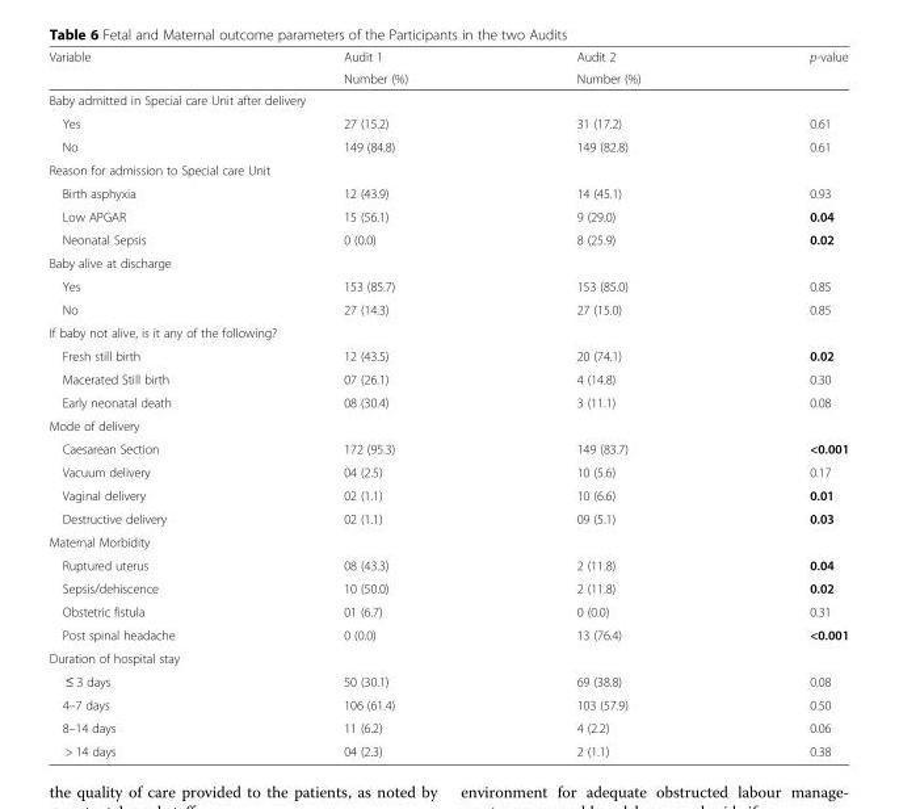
<table><thead><tr><td rowspan="2">Variable</td><td rowspan="2">Audit 1 Number (%)</td><td rowspan="2">Audit 2 Number (%)</td><td rowspan="2">p-value</td></tr><tr></tr></thead><tbody><tr><td colspan="4">Baby admitted in Special care Unit after delivery</td></tr><tr><td>Yes</td><td>27 (15.2)</td><td>31 (17.2)</td><td>0.61</td></tr><tr><td>No</td><td>149 (84.8)</td><td>149 (82.8)</td><td>0.61</td></tr><tr><td colspan="4">Reason for admission to Special care Unit</td></tr><tr><td>Birth asphyxia</td><td>12 (43.9)</td><td>14 (45.1)</td><td>0.93</td></tr><tr><td>Low APGAR</td><td>15 (56.1)</td><td>9 (29.0)</td><td>0.04</td></tr><tr><td>Neonatal Sepsis</td><td>0 (0.0)</td><td>8 (25.9)</td><td>0.02</td></tr><tr><td colspan="4">Baby alive at discharge</td></tr><tr><td>Yes</td><td>153 (85.7)</td><td>153 (85.0)</td><td>0.85</td></tr><tr><td>No</td><td>27 (14.3)</td><td>27 (15.0)</td><td>0.85</td></tr><tr><td colspan="4">If baby not alive, is it any of the following?</td></tr><tr><td>Fresh still birth</td><td>12 (43.5)</td><td>20 (74.1)</td><td>0.02</td></tr><tr><td>Macerated Still birth</td><td>07 (26.1)</td><td>4 (14.8)</td><td>0.30</td></tr><tr><td>Early neonatal death</td><td>08 (30.4)</td><td>3 (11.1)</td><td>0.08</td></tr><tr><td colspan="4">Mode of delivery</td></tr><tr><td>Caesarean Section</td><td>172 (95.3)</td><td>149 (83.7)</td><td>&lt;0.001</td></tr><tr><td>Vacuum delivery</td><td>04 (2.5)</td><td>10 (5.6)</td><td>0.17</td></tr><tr><td>Vaginal delivery</td><td>02 (1.1)</td><td>10 (6.6)</td><td>0.01</td></tr><tr><td>Destructive delivery</td><td>02 (1.1)</td><td>09 (5.1)</td><td>0.03</td></tr><tr><td colspan="4">Maternal Morbidity</td></tr><tr><td>Ruptured uterus</td><td>08 (43.3)</td><td>2 (11.8)</td><td>0.04</td></tr><tr><td>Sepsis/dehiscence</td><td>10 (50.0)</td><td>2 (11.8)</td><td>0.02</td></tr><tr><td>Obstetric fistula</td><td>01 (6.7)</td><td>0 (0.0)</td><td>0.31</td></tr><tr><td>Post spinal headache</td><td>0 (0.0)</td><td>13 (76.4)</td><td>&lt;0.001</td></tr><tr><td colspan="4">Duration of hospital stay</td></tr><tr><td>≤ 3 days</td><td>50 (30.1)</td><td>69 (38.8)</td><td>0.08</td></tr><tr><td>4–7 days</td><td>106 (61.4)</td><td>103 (57.9)</td><td>0.50</td></tr><tr><td>8–14 days</td><td>11 (6.2)</td><td>4 (2.2)</td><td>0.06</td></tr><tr><td>&gt; 14 days</td><td>04 (2.3)</td><td>2 (1.1)</td><td>0.38</td></tr></tbody></table>